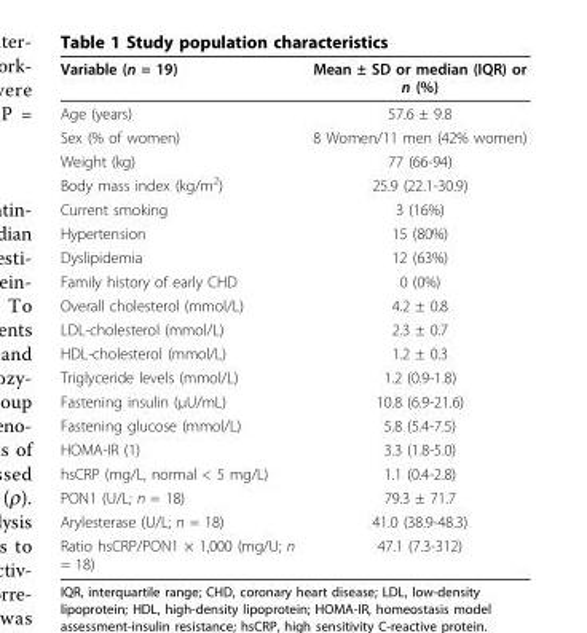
<table><thead><tr><td>Variable (n = 19)</td><td>Mean ± SD or median (IQR) or n (%)</td></tr></thead><tbody><tr><td>Age (years)</td><td>57.6 ± 9.8</td></tr><tr><td>Sex (% of women)</td><td>8 Women/11 men (42% women)</td></tr><tr><td>Weight (kg)</td><td>77 (66-94)</td></tr><tr><td>Body mass index (kg/m<sup>2</sup>)</td><td>25.9 (22.1-30.9)</td></tr><tr><td>Current smoking</td><td>3 (16%)</td></tr><tr><td>Hypertension</td><td>15 (80%)</td></tr><tr><td>Dyslipidemia</td><td>12 (63%)</td></tr><tr><td>Family history of early CHD</td><td>0 (0%)</td></tr><tr><td>Overall cholesterol (mmol/L)</td><td>4.2 ± 0.8</td></tr><tr><td>LDL-cholesterol (mmol/L)</td><td>2.3 ± 0.7</td></tr><tr><td>HDL-cholesterol (mmol/L)</td><td>1.2 ± 0.3</td></tr><tr><td>Triglyceride levels (mmol/L)</td><td>1.2 (0.9-1.8)</td></tr><tr><td>Fastening insulin (μU/mL)</td><td>10.8 (6.9-21.6)</td></tr><tr><td>Fastening glucose (mmol/L)</td><td>5.8 (5.4-7.5)</td></tr><tr><td>HOMA-IR (1)</td><td>3.3 (1.8-5.0)</td></tr><tr><td>hsCRP (mg/L, normal &lt; 5 mg/L)</td><td>1.1 (0.4-2.8)</td></tr><tr><td>PON1 (U/L; n = 18)</td><td>79.3 ± 71.7</td></tr><tr><td>Arylesterase (U/L; n = 18)</td><td>41.0 (38.9-48.3)</td></tr><tr><td>Ratio hsCRP/PON1 × 1,000 (mg/U; n = 18)</td><td>47.1 (7.3-312)</td></tr></tbody></table>